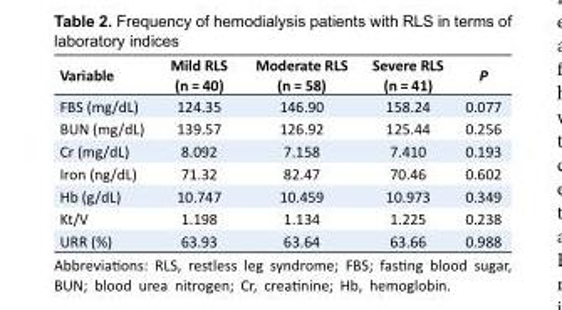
<table><tbody><tr><td>Variable</td><td>Mild RLS (n = 40)</td><td>Moderate RLS (n = 58)</td><td>Severe RLS (n = 41)</td><td>P</td></tr><tr><td>FBS (mg/dL)</td><td>124.35</td><td>146.90</td><td>158.24</td><td>0.077</td></tr><tr><td>BUN (mg/dL)</td><td>139.57</td><td>126.92</td><td>125.44</td><td>0.256</td></tr><tr><td>Cr (mg/dL)</td><td>8.092</td><td>7.158</td><td>7.410</td><td>0.193</td></tr><tr><td>Iron (ng/dL)</td><td>71.32</td><td>82.47</td><td>70.46</td><td>0.602</td></tr><tr><td>Hb (g/dL)</td><td>10.747</td><td>10.459</td><td>10.973</td><td>0.349</td></tr><tr><td>Kt/V</td><td>1.198</td><td>1.134</td><td>1.225</td><td>0.238</td></tr><tr><td>URR (%)</td><td>63.93</td><td>63.64</td><td>63.66</td><td>0.988</td></tr></tbody></table>